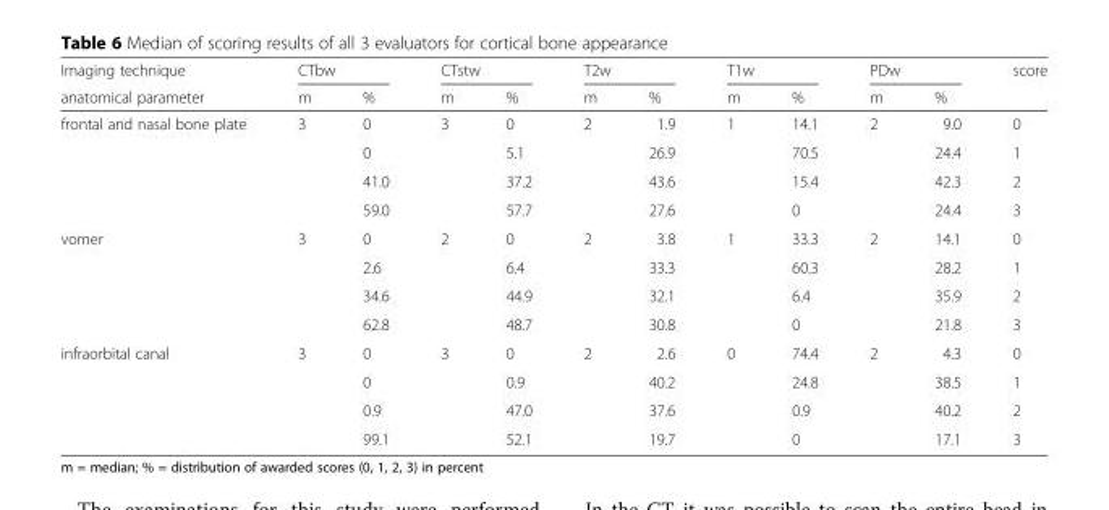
<table><thead><tr><td rowspan="2">Imaging technique anatomical parameter</td><td colspan="2">CTbw</td><td colspan="2">CTstw</td><td colspan="2">T2w</td><td colspan="2">T1w</td><td colspan="2">PDw</td><td rowspan="2">score</td></tr><tr><td>m</td><td>%</td><td>m</td><td>%</td><td>m</td><td>%</td><td>m</td><td>%</td><td>m</td><td>%</td></tr></thead><tbody><tr><td rowspan="4">frontal and nasal bone plate</td><td rowspan="4">3</td><td>0</td><td rowspan="4">3</td><td>0</td><td rowspan="4">2</td><td>1.9</td><td rowspan="4">1</td><td>14.1</td><td rowspan="4">2</td><td>9.0</td><td>0</td></tr><tr><td>0</td><td>5.1</td><td>26.9</td><td>70.5</td><td>24.4</td><td>1</td></tr><tr><td>41.0</td><td>37.2</td><td>43.6</td><td>15.4</td><td>42.3</td><td>2</td></tr><tr><td>59.0</td><td>57.7</td><td>27.6</td><td>0</td><td>24.4</td><td>3</td></tr><tr><td rowspan="4">vomer</td><td rowspan="4">3</td><td>0</td><td rowspan="4">2</td><td>0</td><td rowspan="4">2</td><td>3.8</td><td rowspan="4">1</td><td>33.3</td><td rowspan="4">2</td><td>14.1</td><td>0</td></tr><tr><td>2.6</td><td>6.4</td><td>33.3</td><td>60.3</td><td>28.2</td><td>1</td></tr><tr><td>34.6</td><td>44.9</td><td>32.1</td><td>6.4</td><td>35.9</td><td>2</td></tr><tr><td>62.8</td><td>48.7</td><td>30.8</td><td>0</td><td>21.8</td><td>3</td></tr><tr><td rowspan="4">infraorbital canal</td><td rowspan="4">3</td><td>0</td><td rowspan="4">3</td><td>0</td><td rowspan="4">2</td><td>2.6</td><td rowspan="4">0</td><td>74.4</td><td rowspan="4">2</td><td>4.3</td><td>0</td></tr><tr><td>0</td><td>0.9</td><td>40.2</td><td>24.8</td><td>38.5</td><td>1</td></tr><tr><td>0.9</td><td>47.0</td><td>37.6</td><td>0.9</td><td>40.2</td><td>2</td></tr><tr><td>99.1</td><td>52.1</td><td>19.7</td><td>0</td><td>17.1</td><td>3</td></tr></tbody></table>